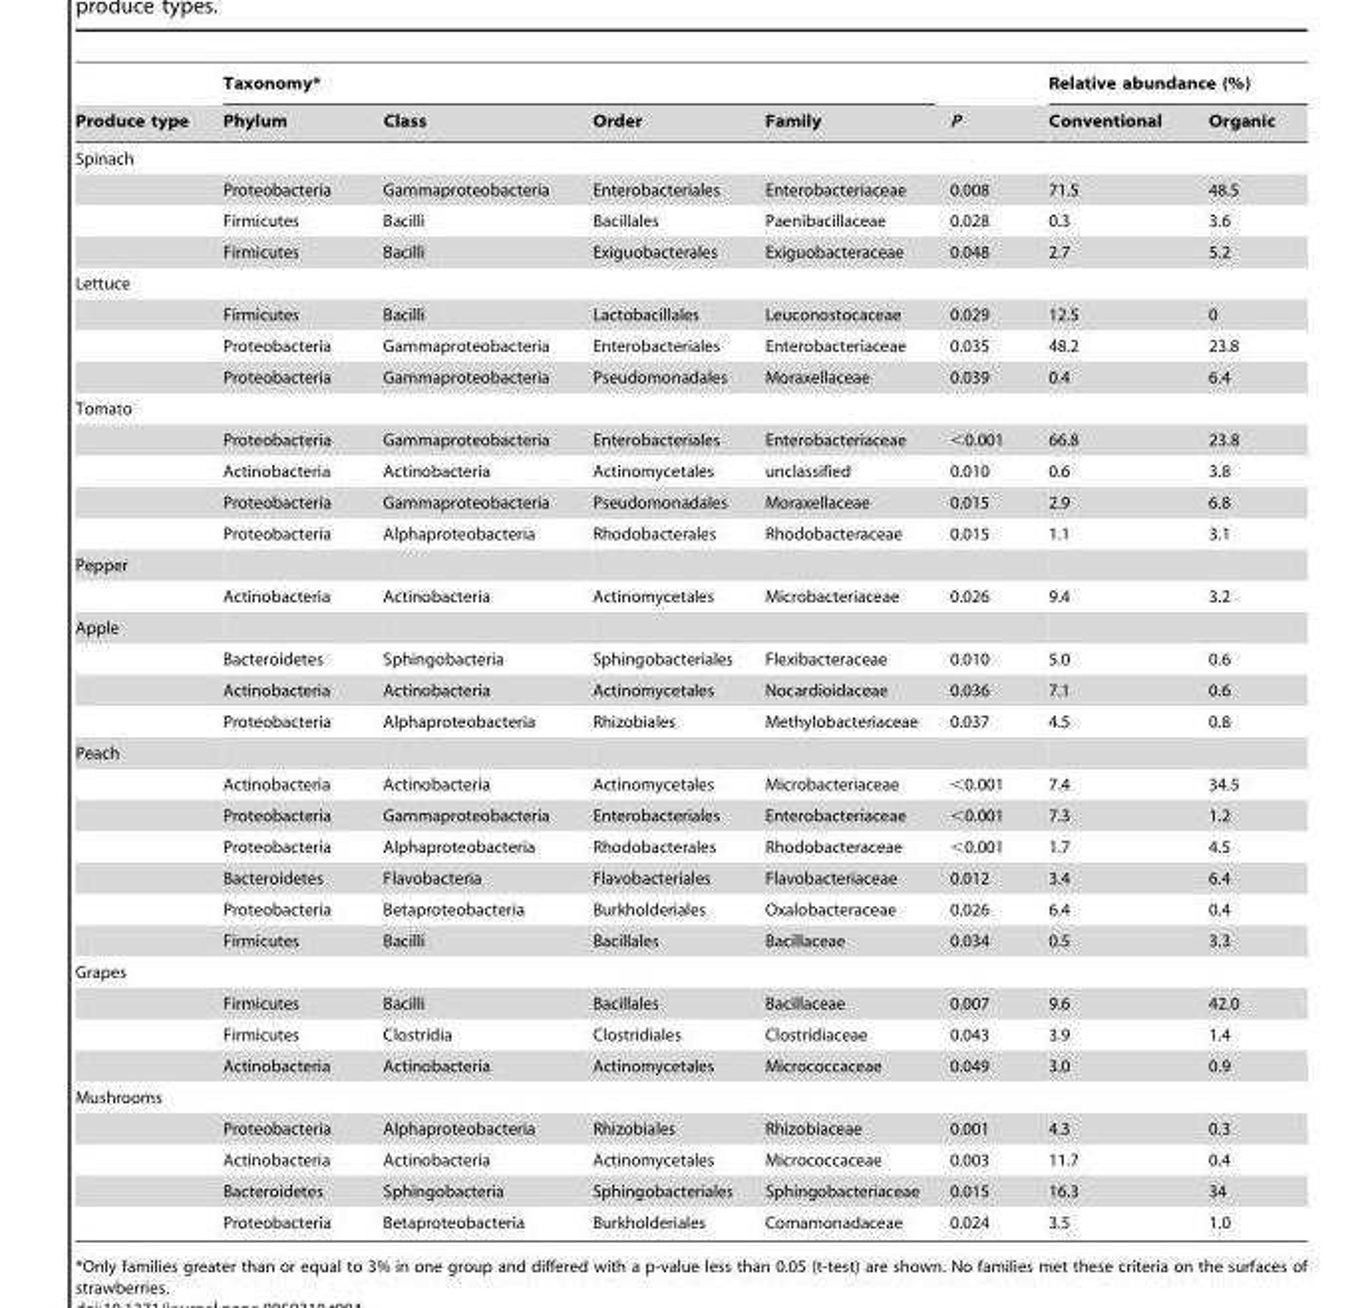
<table><thead><tr><td rowspan="2">Produce type</td><td colspan="4">Taxonomy*</td><td rowspan="2">P</td><td colspan="2">Relative abundance (%)</td></tr><tr><td>Phylum</td><td>Class</td><td>Order</td><td>Family</td><td>Conventional</td><td>Organic</td></tr></thead><tbody><tr><td colspan="8">Spinach</td></tr><tr><td></td><td>Proteobacteria</td><td>Gammaproteobacteria</td><td>Enterobacteriales</td><td>Enterobacteriaceae</td><td>0.008</td><td>71.5</td><td>48.5</td></tr><tr><td></td><td>Firmicutes</td><td>Bacilli</td><td>Bacillales</td><td>Paenibacillaceae</td><td>0.028</td><td>0.3</td><td>3.6</td></tr><tr><td></td><td>Firmicutes</td><td>Bacilli</td><td>Exiguobacterales</td><td>Exiguobacteraceae</td><td>0.048</td><td>2.7</td><td>5.2</td></tr><tr><td colspan="8">Lettuce</td></tr><tr><td></td><td>Firmicutes</td><td>Bacilli</td><td>Lactobacillales</td><td>Leuconostocaceae</td><td>0.029</td><td>12.5</td><td>0</td></tr><tr><td></td><td>Proteobacteria</td><td>Gammaproteobacteria</td><td>Enterobacteriales</td><td>Enterobacteriaceae</td><td>0.035</td><td>48.2</td><td>23.8</td></tr><tr><td></td><td>Proteobacteria</td><td>Gammaproteobacteria</td><td>Pseudomonadales</td><td>Moraxellaceae</td><td>0.039</td><td>0.4</td><td>6.4</td></tr><tr><td colspan="8">Tomato</td></tr><tr><td></td><td>Proteobacteria</td><td>Gammaproteobacteria</td><td>Enterobacteriales</td><td>Enterobacteriaceae</td><td>&lt;0.001</td><td>66.8</td><td>23.8</td></tr><tr><td></td><td>Actinobacteria</td><td>Actinobacteria</td><td>Actinomycetales</td><td>unclassified</td><td>0.010</td><td>0.6</td><td>3.8</td></tr><tr><td></td><td>Proteobacteria</td><td>Gammaproteobacteria</td><td>Pseudomonadales</td><td>Moraxellaceae</td><td>0.015</td><td>2.9</td><td>6.8</td></tr><tr><td></td><td>Proteobacteria</td><td>Alphaproteobacteria</td><td>Rhodobacterales</td><td>Rhodobacteraceae</td><td>0.015</td><td>1.1</td><td>3.1</td></tr><tr><td colspan="8">Pepper</td></tr><tr><td></td><td>Actinobacteria</td><td>Actinobacteria</td><td>Actinomycetales</td><td>Microbacteriaceae</td><td>0.026</td><td>9.4</td><td>3.2</td></tr><tr><td colspan="8">Apple</td></tr><tr><td></td><td>Bacteroidetes</td><td>Sphingobacteria</td><td>Sphingobacteriales</td><td>Flexibacteraceae</td><td>0.010</td><td>5.0</td><td>0.6</td></tr><tr><td></td><td>Actinobacteria</td><td>Actinobacteria</td><td>Actinomycetales</td><td>Nocardioidaceae</td><td>0.036</td><td>7.1</td><td>0.6</td></tr><tr><td></td><td>Proteobacteria</td><td>Alphaproteobacteria</td><td>Rhizobiales</td><td>Methylobacteriaceae</td><td>0.037</td><td>4.5</td><td>0.8</td></tr><tr><td colspan="8">Peach</td></tr><tr><td></td><td>Actinobacteria</td><td>Actinobacteria</td><td>Actinomycetales</td><td>Microbacteriaceae</td><td>&lt;0.001</td><td>7.4</td><td>34.5</td></tr><tr><td></td><td>Proteobacteria</td><td>Gammaproteobacteria</td><td>Enterobacteriales</td><td>Enterobacteriaceae</td><td>&lt;0.001</td><td>7.3</td><td>1.2</td></tr><tr><td></td><td>Proteobacteria</td><td>Alphaproteobacteria</td><td>Rhodobacterales</td><td>Rhodobacteraceae</td><td>&lt;0.001</td><td>1.7</td><td>4.5</td></tr><tr><td></td><td>Bacteroidetes</td><td>Flavobacteria</td><td>Flavobacteriales</td><td>Flavobacteriaceae</td><td>0.012</td><td>3.4</td><td>6.4</td></tr><tr><td></td><td>Proteobacteria</td><td>Betaproteobacteria</td><td>Burkholderiales</td><td>Oxalobacteraceae</td><td>0.026</td><td>6.4</td><td>0.4</td></tr><tr><td></td><td>Firmicutes</td><td>Bacilli</td><td>Bacillales</td><td>Bacillaceae</td><td>0.034</td><td>0.5</td><td>3.3</td></tr><tr><td colspan="8">Grapes</td></tr><tr><td></td><td>Firmicutes</td><td>Bacilli</td><td>Bacillales</td><td>Bacillaceae</td><td>0.007</td><td>9.6</td><td>42.0</td></tr><tr><td></td><td>Firmicutes</td><td>Clostridia</td><td>Clostridiales</td><td>Clostridiaceae</td><td>0.043</td><td>3.9</td><td>1.4</td></tr><tr><td></td><td>Actinobacteria</td><td>Actinobacteria</td><td>Actinomycetales</td><td>Micrococcaceae</td><td>0.049</td><td>3.0</td><td>0.9</td></tr><tr><td colspan="8">Mushrooms</td></tr><tr><td></td><td>Proteobacteria</td><td>Alphaproteobacteria</td><td>Rhizobiales</td><td>Rhizobiaceae</td><td>0.001</td><td>4.3</td><td>0.3</td></tr><tr><td></td><td>Actinobacteria</td><td>Actinobacteria</td><td>Actinomycetales</td><td>Micrococcaceae</td><td>0.003</td><td>11.7</td><td>0.4</td></tr><tr><td></td><td>Bacteroidetes</td><td>Sphingobacteria</td><td>Sphingobacteriales</td><td>Sphingobacteriaceae</td><td>0.015</td><td>16.3</td><td>34</td></tr><tr><td></td><td>Proteobacteria</td><td>Betaproteobacteria</td><td>Burkholderiales</td><td>Comamonadaceae</td><td>0.024</td><td>3.5</td><td>1.0</td></tr></tbody></table>